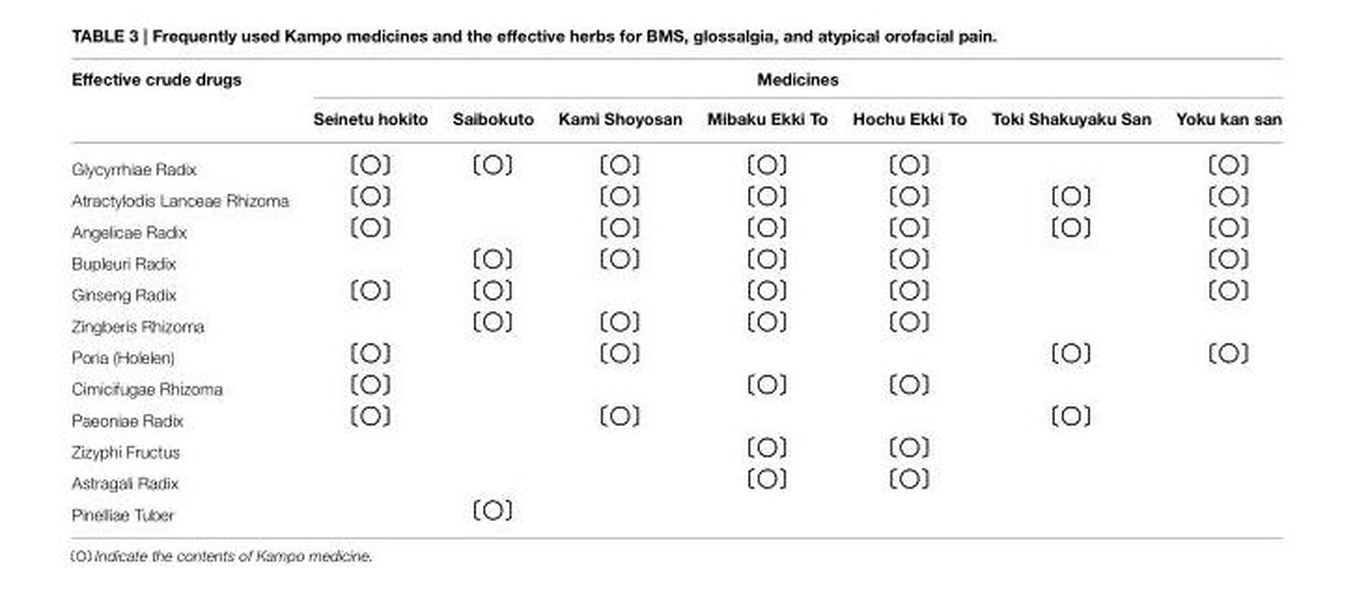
<table><thead><tr><td rowspan="2">Effective crude drugs</td><td colspan="7">Medicines</td></tr><tr><td>Seinetu hokito</td><td>Saibokuto</td><td>Kami Shoyosan</td><td>Mibaku Ekki To</td><td>Hochu Ekki To</td><td>Toki Shakuyaku San</td><td>Yoku kan san</td></tr></thead><tbody><tr><td colspan="8">Glycyrrhiae Radix</td></tr><tr><td colspan="8">Atractylodis Lanceae Rhizoma</td></tr><tr><td colspan="8">Angelicae Radix</td></tr><tr><td colspan="8">Bupleuri Radix</td></tr><tr><td colspan="8">Ginseng Radix</td></tr><tr><td colspan="8">Zingberis Rhizoma</td></tr><tr><td colspan="8">Poria (Holelen)</td></tr><tr><td colspan="8">Cimicifugae Rhizoma</td></tr><tr><td colspan="8">Paeoniae Radix</td></tr><tr><td colspan="8">Zizyphi Fructus</td></tr><tr><td colspan="8">Astragali Radix</td></tr><tr><td>Pinelliae Tuber</td><td></td><td></td><td></td><td></td><td></td><td></td><td></td></tr></tbody></table>